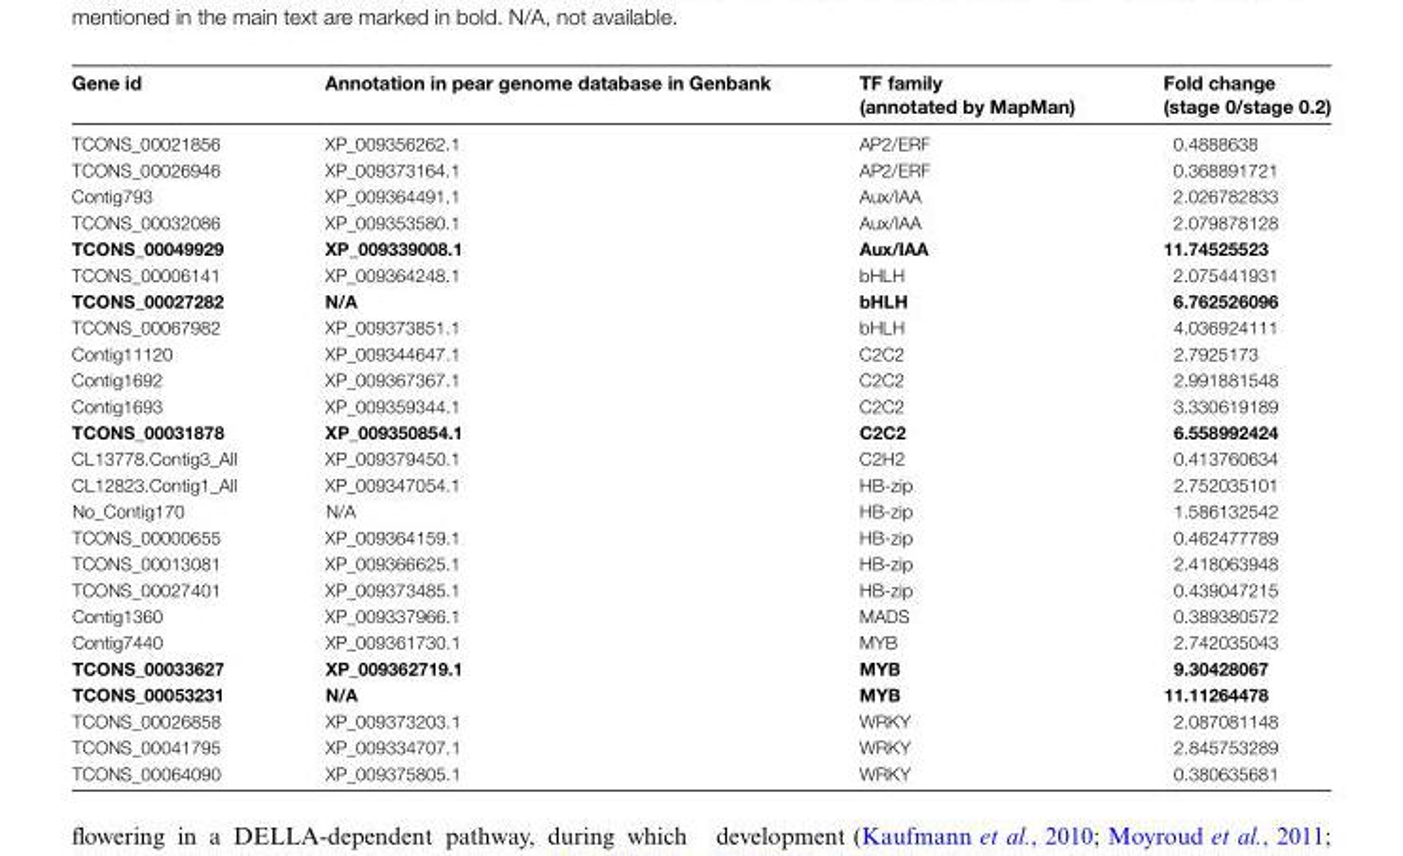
<table><thead><tr><td>Gene id</td><td>Annotation in pear genome database in Genbank</td><td>TF family (annotated by MapMan)</td><td>Fold change (stage 0/stage 0.2)</td></tr></thead><tbody><tr><td>TCONS_00021856</td><td>XP_009356262.1</td><td>AP2/ERF</td><td>0.4888638</td></tr><tr><td>TCONS_00026946</td><td>XP_009373164.1</td><td>AP2/ERF</td><td>0.368891721</td></tr><tr><td>Contig793</td><td>XP_009364491.1</td><td>Aux/IAA</td><td>2.026782833</td></tr><tr><td>TCONS_00032086</td><td>XP_009353580.1</td><td>Aux/IAA</td><td>2.079878128</td></tr><tr><td>TCONS_00049929</td><td>XP_009339008.1</td><td>Aux/IAA</td><td>11.74525523</td></tr><tr><td>TCONS_00006141</td><td>XP_009364248.1</td><td>bHLH</td><td>2.075441931</td></tr><tr><td>TCONS_00027282</td><td>N/A</td><td>bHLH</td><td>6.762526096</td></tr><tr><td>TCONS_00067982</td><td>XP_009373851.1</td><td>bHLH</td><td>4.036924111</td></tr><tr><td>Contig11120</td><td>XP_009344647.1</td><td>C2C2</td><td>2.7925173</td></tr><tr><td>Contig1692</td><td>XP_009367367.1</td><td>C2C2</td><td>2.991881548</td></tr><tr><td>Contig1693</td><td>XP_009359344.1</td><td>C2C2</td><td>3.330619189</td></tr><tr><td>TCONS_00031878</td><td>XP_009350854.1</td><td>C2C2</td><td>6.558992424</td></tr><tr><td>CL13778.Contig3_All</td><td>XP_009379450.1</td><td>C2H2</td><td>0.413760634</td></tr><tr><td>CL12823.Contig1_All</td><td>XP_009347054.1</td><td>HB-zip</td><td>2.752035101</td></tr><tr><td>No_Contig170</td><td>N/A</td><td>HB-zip</td><td>1.586132542</td></tr><tr><td>TCONS_00000655</td><td>XP_009364159.1</td><td>HB-zip</td><td>0.462477789</td></tr><tr><td>TCONS_00013081</td><td>XP_009366625.1</td><td>HB-zip</td><td>2.418063948</td></tr><tr><td>TCONS_00027401</td><td>XP_009373485.1</td><td>HB-zip</td><td>0.439047215</td></tr><tr><td>Contig1360</td><td>XP_009337966.1</td><td>MADS</td><td>0.389380572</td></tr><tr><td>Contig7440</td><td>XP_009361730.1</td><td>MYB</td><td>2.742035043</td></tr><tr><td>TCONS_00033627</td><td>XP_009362719.1</td><td>MYB</td><td>9.30428067</td></tr><tr><td>TCONS_00053231</td><td>N/A</td><td>MYB</td><td>11.11264478</td></tr><tr><td>TCONS_00026858</td><td>XP_009373203.1</td><td>WRKY</td><td>2.087081148</td></tr><tr><td>TCONS_00041795</td><td>XP_009334707.1</td><td>WRKY</td><td>2.845753289</td></tr><tr><td>TCONS_00064090</td><td>XP_009375805.1</td><td>WRKY</td><td>0.380635681</td></tr></tbody></table>